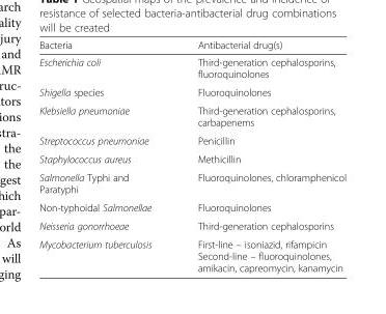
<table><thead><tr><td>Bacteria</td><td>Antibacterial drug(s)</td></tr></thead><tbody><tr><td>Escherichia coli</td><td>Third-generation cephalosporins, fluoroquinolones</td></tr><tr><td>Shigella species</td><td>Fluoroquinolones</td></tr><tr><td>Klebsiella pneumoniae</td><td>Third-generation cephalosporins, carbapenems</td></tr><tr><td>Streptococcus pneumoniae</td><td>Penicillin</td></tr><tr><td>Staphylococcus aureus</td><td>Methicillin</td></tr><tr><td>Salmonella Typhi and Paratyphi</td><td>Fluoroquinolones, chloramphenicol</td></tr><tr><td>Non-typhoidal Salmonellae</td><td>Fluoroquinolones</td></tr><tr><td>Neisseria gonorrhoeae</td><td>Third-generation cephalosporins</td></tr><tr><td>Mycobacterium tuberculosis</td><td>First-line – isoniazid, rifampicin Second-line – fluoroquinolones, amikacin, capreomycin, kanamycin</td></tr></tbody></table>